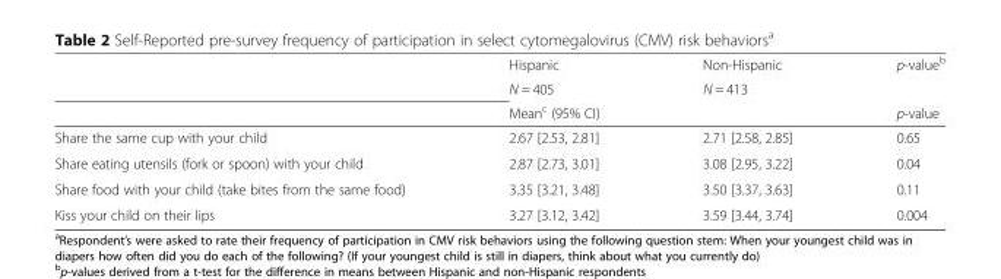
<table><thead><tr><td rowspan="3"></td><td rowspan="2">Hispanic N = 405</td><td rowspan="2">Non-Hispanic N = 413</td><td rowspan="3">p-value<sup>b</sup> p-value</td></tr><tr></tr><tr><td colspan="2">Mean<sup>c</sup> (95% CI)</td></tr></thead><tbody><tr><td>Share the same cup with your child</td><td>2.67 [2.53, 2.81]</td><td>2.71 [2.58, 2.85]</td><td>0.65</td></tr><tr><td>Share eating utensils (fork or spoon) with your child</td><td>2.87 [2.73, 3.01]</td><td>3.08 [2.95, 3.22]</td><td>0.04</td></tr><tr><td>Share food with your child (take bites from the same food)</td><td>3.35 [3.21, 3.48]</td><td>3.50 [3.37, 3.63]</td><td>0.11</td></tr><tr><td>Kiss your child on their lips</td><td>3.27 [3.12, 3.42]</td><td>3.59 [3.44, 3.74]</td><td>0.004</td></tr></tbody></table>